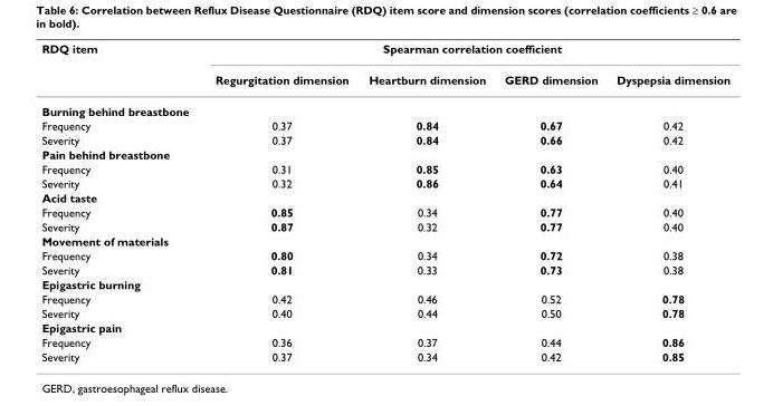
<table><thead><tr><td rowspan="2">RDQ item</td><td colspan="4">Spearman correlation coefficient</td></tr><tr><td>Regurgitation dimension</td><td>Heartburn dimension</td><td>GERD dimension</td><td>Dyspepsia dimension</td></tr></thead><tbody><tr><td colspan="5">Burning behind breastbone</td></tr><tr><td>Frequency</td><td>0.37</td><td>0.84</td><td>0.67</td><td>0.42</td></tr><tr><td>Severity</td><td>0.37</td><td>0.84</td><td>0.66</td><td>0.42</td></tr><tr><td colspan="5">Pain behind breastbone</td></tr><tr><td>Frequency</td><td>0.31</td><td>0.85</td><td>0.63</td><td>0.40</td></tr><tr><td>Severity</td><td>0.32</td><td>0.86</td><td>0.64</td><td>0.41</td></tr><tr><td colspan="5">Acid taste</td></tr><tr><td>Frequency</td><td>0.85</td><td>0.34</td><td>0.77</td><td>0.40</td></tr><tr><td>Severity</td><td>0.87</td><td>0.32</td><td>0.77</td><td>0.40</td></tr><tr><td colspan="5">Movement of materials</td></tr><tr><td>Frequency</td><td>0.80</td><td>0.34</td><td>0.72</td><td>0.38</td></tr><tr><td>Severity</td><td>0.81</td><td>0.33</td><td>0.73</td><td>0.38</td></tr><tr><td colspan="5">Epigastric burning</td></tr><tr><td>Frequency</td><td>0.42</td><td>0.46</td><td>0.52</td><td>0.78</td></tr><tr><td>Severity</td><td>0.40</td><td>0.44</td><td>0.50</td><td>0.78</td></tr><tr><td colspan="5">Epigastric pain</td></tr><tr><td>Frequency</td><td>0.36</td><td>0.37</td><td>0.44</td><td>0.86</td></tr><tr><td>Severity</td><td>0.37</td><td>0.34</td><td>0.42</td><td>0.85</td></tr></tbody></table>